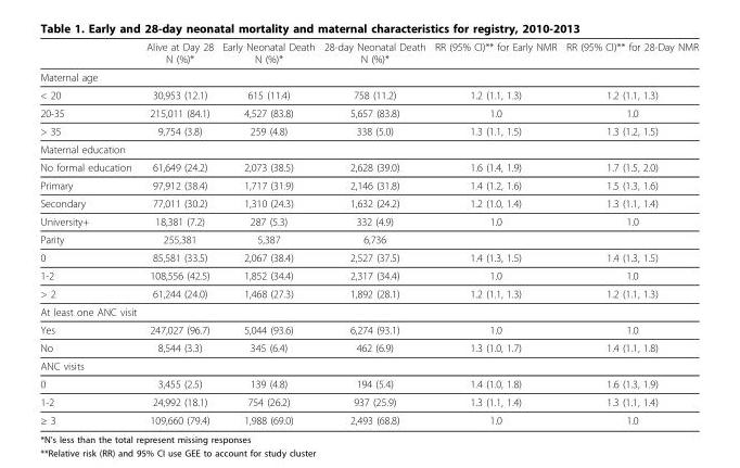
<table><thead><tr><td></td><td>Alive at Day 28 N (%)*</td><td>Early Neonatal Death N (%)*</td><td>28-day Neonatal Death N (%)*</td><td>RR (95% CI)** for Early NMR</td><td>RR (95% CI)** for 28-Day NMR</td></tr></thead><tbody><tr><td colspan="6">Maternal age</td></tr><tr><td>&lt; 20</td><td>30,953 (12.1)</td><td>615 (11.4)</td><td>758 (11.2)</td><td>1.2 (1.1, 1.3)</td><td>1.2 (1.1, 1.3)</td></tr><tr><td>20-35</td><td>215,011 (84.1)</td><td>4,527 (83.8)</td><td>5,657 (83.8)</td><td>1.0</td><td>1.0</td></tr><tr><td>&gt; 35</td><td>9,754 (3.8)</td><td>259 (4.8)</td><td>338 (5.0)</td><td>1.3 (1.1, 1.5)</td><td>1.3 (1.2, 1.5)</td></tr><tr><td colspan="6">Maternal education</td></tr><tr><td>No formal education</td><td>61,649 (24.2)</td><td>2,073 (38.5)</td><td>2,628 (39.0)</td><td>1.6 (1.4, 1.9)</td><td>1.7 (1.5, 2.0)</td></tr><tr><td>Primary</td><td>97,912 (38.4)</td><td>1,717 (31.9)</td><td>2,146 (31.8)</td><td>1.4 (1.2, 1.6)</td><td>1.5 (1.3, 1.6)</td></tr><tr><td>Secondary</td><td>77,011 (30.2)</td><td>1,310 (24.3)</td><td>1,632 (24.2)</td><td>1.2 (1.0, 1.4)</td><td>1.3 (1.1, 1.4)</td></tr><tr><td>University+</td><td>18,381 (7.2)</td><td>287 (5.3)</td><td>332 (4.9)</td><td>1.0</td><td>1.0</td></tr><tr><td>Parity</td><td>255,381</td><td>5,387</td><td>6,736</td><td></td><td></td></tr><tr><td>0</td><td>85,581 (33.5)</td><td>2,067 (38.4)</td><td>2,527 (37.5)</td><td>1.4 (1.3, 1.5)</td><td>1.4 (1.3, 1.5)</td></tr><tr><td>1-2</td><td>108,556 (42.5)</td><td>1,852 (34.4)</td><td>2,317 (34.4)</td><td>1.0</td><td>1.0</td></tr><tr><td>&gt; 2</td><td>61,244 (24.0)</td><td>1,468 (27.3)</td><td>1,892 (28.1)</td><td>1.2 (1.1, 1.3)</td><td>1.2 (1.1, 1.3)</td></tr><tr><td colspan="6">At least one ANC visit</td></tr><tr><td>Yes</td><td>247,027 (96.7)</td><td>5,044 (93.6)</td><td>6,274 (93.1)</td><td>1.0</td><td>1.0</td></tr><tr><td>No</td><td>8,544 (3.3)</td><td>345 (6.4)</td><td>462 (6.9)</td><td>1.3 (1.0, 1.7)</td><td>1.4 (1.1, 1.8)</td></tr><tr><td colspan="6">ANC visits</td></tr><tr><td>0</td><td>3,455 (2.5)</td><td>139 (4.8)</td><td>194 (5.4)</td><td>1.4 (1.0, 1.8)</td><td>1.6 (1.3, 1.9)</td></tr><tr><td>1-2</td><td>24,992 (18.1)</td><td>754 (26.2)</td><td>937 (25.9)</td><td>1.3 (1.1, 1.4)</td><td>1.3 (1.1, 1.4)</td></tr><tr><td>≥ 3</td><td>109,660 (79.4)</td><td>1,988 (69.0)</td><td>2,493 (68.8)</td><td>1.0</td><td>1.0</td></tr></tbody></table>